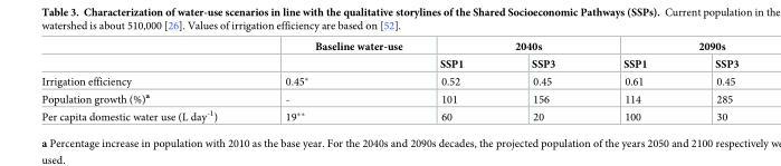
<table><thead><tr><td rowspan="2"></td><td rowspan="2">Baseline water-use</td><td colspan="2">2040s</td><td colspan="2">2090s</td></tr><tr><td>SSP1</td><td>SSP3</td><td>SSP1</td><td>SSP3</td></tr></thead><tbody><tr><td>Irrigation efficiency</td><td>0.45*</td><td>0.52</td><td>0.45</td><td>0.61</td><td>0.45</td></tr><tr><td>Population growth (%)<sup>a</sup></td><td>-</td><td>101</td><td>156</td><td>114</td><td>285</td></tr><tr><td>Per capita domestic water use (L day<sup>-1</sup>)</td><td>19**</td><td>60</td><td>20</td><td>100</td><td>30</td></tr></tbody></table>